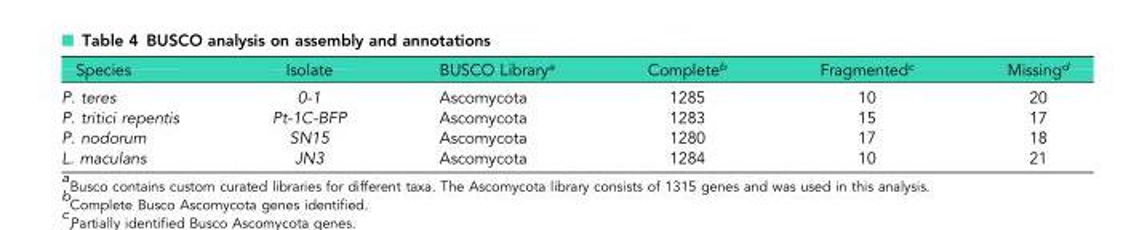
<table><thead><tr><td>Species</td><td>Isolate</td><td>BUSCO Library<sup>a</sup></td><td>Complete<sup>b</sup></td><td>Fragmented<sup>c</sup></td><td>Missing<sup>d</sup></td></tr></thead><tbody><tr><td>P. teres</td><td>0-1</td><td>Ascomycota</td><td>1285</td><td>10</td><td>20</td></tr><tr><td>P. tritici repentis</td><td>Pt-1C-BFP</td><td>Ascomycota</td><td>1283</td><td>15</td><td>17</td></tr><tr><td>P. nodorum</td><td>SN15</td><td>Ascomycota</td><td>1280</td><td>17</td><td>18</td></tr><tr><td>L. maculans</td><td>JN3</td><td>Ascomycota</td><td>1284</td><td>10</td><td>21</td></tr></tbody></table>